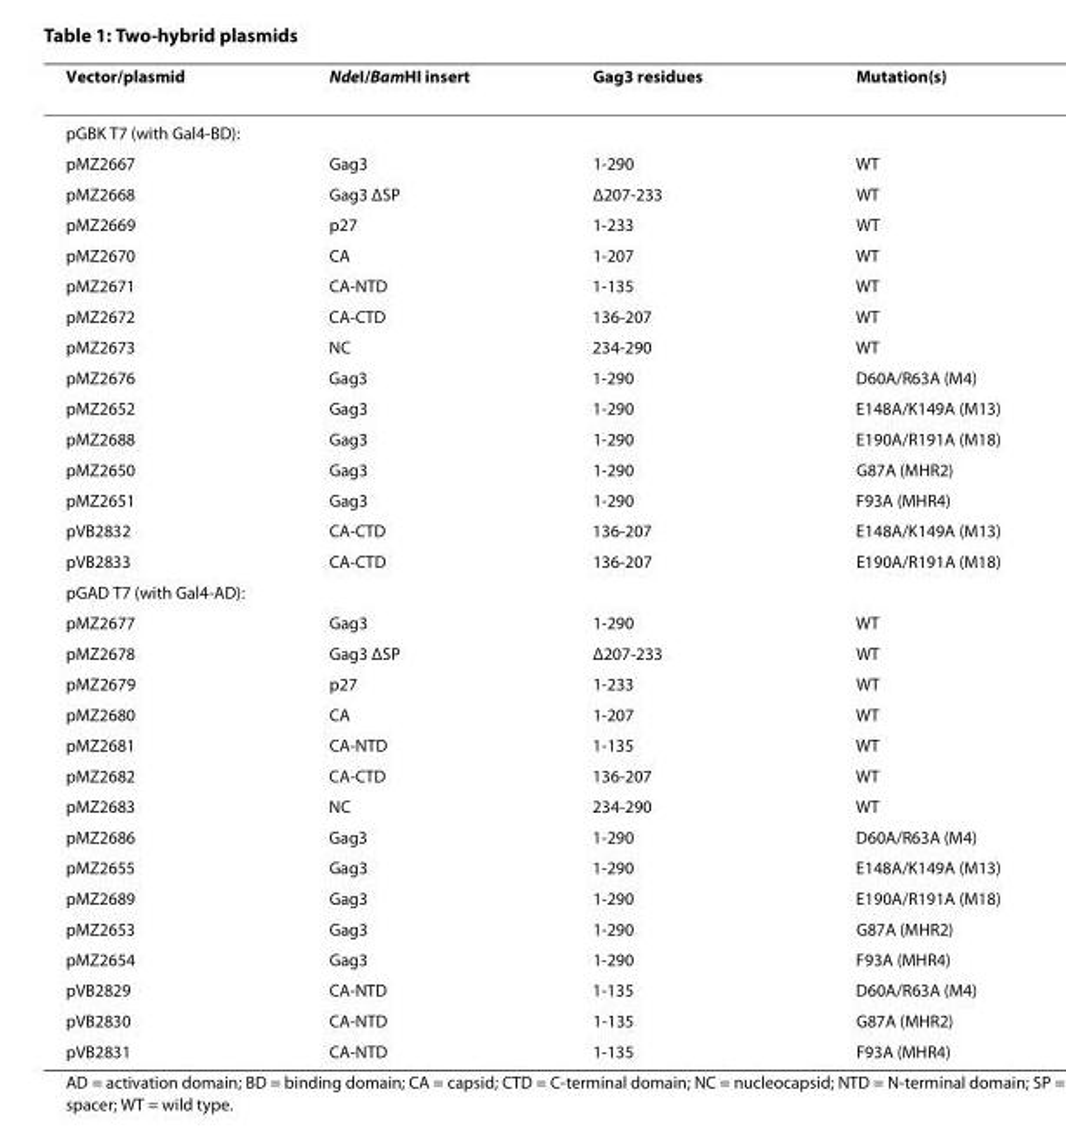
<table><thead><tr><td>Vector/plasmid</td><td>NdeI/BamHI insert</td><td>Gag3 residues</td><td>Mutation(s)</td></tr></thead><tbody><tr><td colspan="4">pGBK T7 (with Gal4-BD):</td></tr><tr><td>pMZ2667</td><td>Gag3</td><td>1-290</td><td>WT</td></tr><tr><td>pMZ2668</td><td>Gag3 ΔSP</td><td>Δ207-233</td><td>WT</td></tr><tr><td>pMZ2669</td><td>p27</td><td>1-233</td><td>WT</td></tr><tr><td>pMZ2670</td><td>CA</td><td>1-207</td><td>WT</td></tr><tr><td>pMZ2671</td><td>CA-NTD</td><td>1-135</td><td>WT</td></tr><tr><td>pMZ2672</td><td>CA-CTD</td><td>136-207</td><td>WT</td></tr><tr><td>pMZ2673</td><td>NC</td><td>234-290</td><td>WT</td></tr><tr><td>pMZ2676</td><td>Gag3</td><td>1-290</td><td>D60A/R63A (M4)</td></tr><tr><td>pMZ2652</td><td>Gag3</td><td>1-290</td><td>E148A/K149A (M13)</td></tr><tr><td>pMZ2688</td><td>Gag3</td><td>1-290</td><td>E190A/R191A (M18)</td></tr><tr><td>pMZ2650</td><td>Gag3</td><td>1-290</td><td>G87A (MHR2)</td></tr><tr><td>pMZ2651</td><td>Gag3</td><td>1-290</td><td>F93A (MHR4)</td></tr><tr><td>pVB2832</td><td>CA-CTD</td><td>136-207</td><td>E148A/K149A (M13)</td></tr><tr><td>pVB2833</td><td>CA-CTD</td><td>136-207</td><td>E190A/R191A (M18)</td></tr><tr><td colspan="4">pGAD T7 (with Gal4-AD):</td></tr><tr><td>pMZ2677</td><td>Gag3</td><td>1-290</td><td>WT</td></tr><tr><td>pMZ2678</td><td>Gag3 ΔSP</td><td>Δ207-233</td><td>WT</td></tr><tr><td>pMZ2679</td><td>p27</td><td>1-233</td><td>WT</td></tr><tr><td>pMZ2680</td><td>CA</td><td>1-207</td><td>WT</td></tr><tr><td>pMZ2681</td><td>CA-NTD</td><td>1-135</td><td>WT</td></tr><tr><td>pMZ2682</td><td>CA-CTD</td><td>136-207</td><td>WT</td></tr><tr><td>pMZ2683</td><td>NC</td><td>234-290</td><td>WT</td></tr><tr><td>pMZ2686</td><td>Gag3</td><td>1-290</td><td>D60A/R63A (M4)</td></tr><tr><td>pMZ2655</td><td>Gag3</td><td>1-290</td><td>E148A/K149A (M13)</td></tr><tr><td>pMZ2689</td><td>Gag3</td><td>1-290</td><td>E190A/R191A (M18)</td></tr><tr><td>pMZ2653</td><td>Gag3</td><td>1-290</td><td>G87A (MHR2)</td></tr><tr><td>pMZ2654</td><td>Gag3</td><td>1-290</td><td>F93A (MHR4)</td></tr><tr><td>pVB2829</td><td>CA-NTD</td><td>1-135</td><td>D60A/R63A (M4)</td></tr><tr><td>pVB2830</td><td>CA-NTD</td><td>1-135</td><td>G87A (MHR2)</td></tr><tr><td>pVB2831</td><td>CA-NTD</td><td>1-135</td><td>F93A (MHR4)</td></tr></tbody></table>